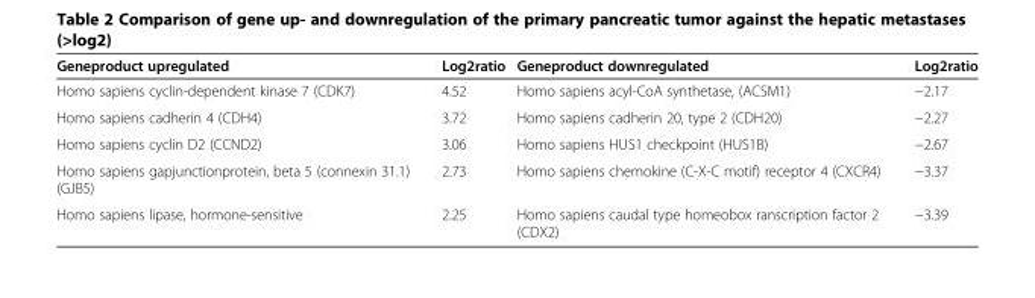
<table><thead><tr><td>Geneproduct upregulated</td><td>Log2ratio</td><td>Geneproduct downregulated</td><td>Log2ratio</td></tr></thead><tbody><tr><td>Homo sapiens cyclin-dependent kinase 7 (CDK7)</td><td>4.52</td><td>Homo sapiens acyl-CoA synthetase, (ACSM1)</td><td>−2.17</td></tr><tr><td>Homo sapiens cadherin 4 (CDH4)</td><td>3.72</td><td>Homo sapiens cadherin 20, type 2 (CDH20)</td><td>−2.27</td></tr><tr><td>Homo sapiens cyclin D2 (CCND2)</td><td>3.06</td><td>Homo sapiens HUS1 checkpoint (HUS1B)</td><td>−2.67</td></tr><tr><td>Homo sapiens gapjunctionprotein, beta 5 (connexin 31.1) (GJB5)</td><td>2.73</td><td>Homo sapiens chemokine (C-X-C motif) receptor 4 (CXCR4)</td><td>−3.37</td></tr><tr><td>Homo sapiens lipase, hormone-sensitive</td><td>2.25</td><td>Homo sapiens caudal type homeobox ranscription factor 2 (CDX2)</td><td>−3.39</td></tr></tbody></table>